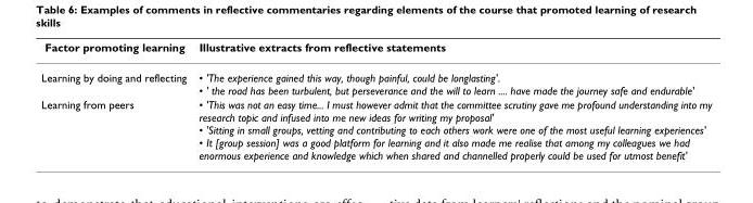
<table><thead><tr><td>Factor promoting learning</td><td>Illustrative extracts from reflective statements</td></tr></thead><tbody><tr><td>Learning by doing and reflecting</td><td>• &#x27;The experience gained this way, though painful, could be longlasting&#x27;. • &#x27; the road has been turbulent, but perseverance and the will to learn .... have made the journey safe and endurable&#x27;</td></tr><tr><td>Learning from peers</td><td>• &#x27;This was not an easy time... I must however admit that the committee scrutiny gave me profound understanding into my research topic and infused into me new ideas for writing my proposal&#x27; • &#x27;Sitting in small groups, vetting and contributing to each others work were one of the most useful learning experiences&#x27; • It [group session] was a good platform for learning and it also made me realise that among my colleagues we had enormous experience and knowledge which when shared and channelled properly could be used for utmost benefit&#x27;</td></tr></tbody></table>